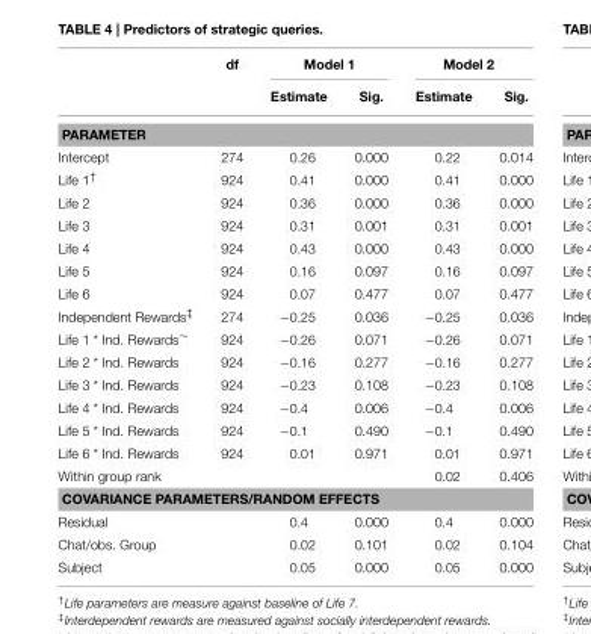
<table><thead><tr><td rowspan="2"></td><td rowspan="2">df</td><td colspan="2">Model 1</td><td colspan="2">Model 2</td></tr><tr><td>Estimate</td><td>Sig.</td><td>Estimate</td><td>Sig.</td></tr></thead><tbody><tr><td colspan="6">PARAMETER</td></tr><tr><td>Intercept</td><td>274</td><td>0.26</td><td>0.000</td><td>0.22</td><td>0.014</td></tr><tr><td>Life 1<sup>†</sup></td><td>924</td><td>0.41</td><td>0.000</td><td>0.41</td><td>0.000</td></tr><tr><td>Life 2</td><td>924</td><td>0.36</td><td>0.000</td><td>0.36</td><td>0.000</td></tr><tr><td>Life 3</td><td>924</td><td>0.31</td><td>0.001</td><td>0.31</td><td>0.001</td></tr><tr><td>Life 4</td><td>924</td><td>0.43</td><td>0.000</td><td>0.43</td><td>0.000</td></tr><tr><td>Life 5</td><td>924</td><td>0.16</td><td>0.097</td><td>0.16</td><td>0.097</td></tr><tr><td>Life 6</td><td>924</td><td>0.07</td><td>0.477</td><td>0.07</td><td>0.477</td></tr><tr><td>Independent Rewards<sup>‡</sup></td><td>274</td><td>−0.25</td><td>0.036</td><td>−0.25</td><td>0.036</td></tr><tr><td>Life 1 * Ind. Rewards∼</td><td>924</td><td>−0.26</td><td>0.071</td><td>−0.26</td><td>0.071</td></tr><tr><td>Life 2 * Ind. Rewards</td><td>924</td><td>−0.16</td><td>0.277</td><td>−0.16</td><td>0.277</td></tr><tr><td>Life 3 * Ind. Rewards</td><td>924</td><td>−0.23</td><td>0.108</td><td>−0.23</td><td>0.108</td></tr><tr><td>Life 4 * Ind. Rewards</td><td>924</td><td>−0.4</td><td>0.006</td><td>−0.4</td><td>0.006</td></tr><tr><td>Life 5 * Ind. Rewards</td><td>924</td><td>−0.1</td><td>0.490</td><td>−0.1</td><td>0.490</td></tr><tr><td>Life 6 * Ind. Rewards</td><td>924</td><td>0.01</td><td>0.971</td><td>0.01</td><td>0.971</td></tr><tr><td>Within group rank</td><td></td><td></td><td></td><td>0.02</td><td>0.406</td></tr><tr><td colspan="6">COVARIANCE PARAMETERS/RANDOM EFFECTS</td></tr><tr><td>Residual</td><td></td><td>0.4</td><td>0.000</td><td>0.4</td><td>0.000</td></tr><tr><td>Chat/obs. Group</td><td></td><td>0.02</td><td>0.101</td><td>0.02</td><td>0.104</td></tr><tr><td>Subject</td><td></td><td>0.05</td><td>0.000</td><td>0.05</td><td>0.000</td></tr></tbody></table>